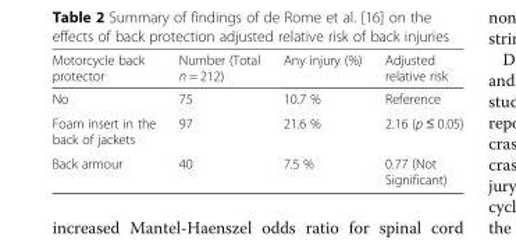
<table><thead><tr><td>Motorcycle back protector</td><td>Number (Total n = 212)</td><td>Any injury (%)</td><td>Adjusted relative risk</td></tr></thead><tbody><tr><td>No</td><td>75</td><td>10.7 %</td><td>Reference</td></tr><tr><td>Foam insert in the back of jackets</td><td>97</td><td>21.6 %</td><td>2.16 (p ≤ 0.05)</td></tr><tr><td>Back armour</td><td>40</td><td>7.5 %</td><td>0.77 (Not Significant)</td></tr></tbody></table>